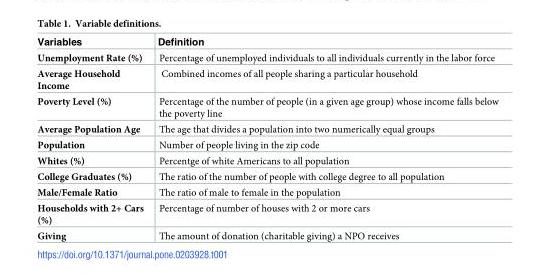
<table><thead><tr><td>Variables</td><td>Definition</td></tr></thead><tbody><tr><td>Unemployment Rate (%)</td><td>Percentage of unemployed individuals to all individuals currently in the labor force</td></tr><tr><td>Average Household Income</td><td>Combined incomes of all people sharing a particular household</td></tr><tr><td>Poverty Level (%)</td><td>Percentage of the number of people (in a given age group) whose income falls below the poverty line</td></tr><tr><td>Average Population Age</td><td>The age that divides a population into two numerically equal groups</td></tr><tr><td>Population</td><td>Number of people living in the zip code</td></tr><tr><td>Whites (%)</td><td>Percentge of white Americans to all population</td></tr><tr><td>College Graduates (%)</td><td>The ratio of the number of people with college degree to all population</td></tr><tr><td>Male/Female Ratio</td><td>The ratio of male to female in the population</td></tr><tr><td>Households with 2+ Cars (%)</td><td>Percentage of number of houses with 2 or more cars</td></tr><tr><td>Giving</td><td>The amount of donation (charitable giving) a NPO receives</td></tr></tbody></table>